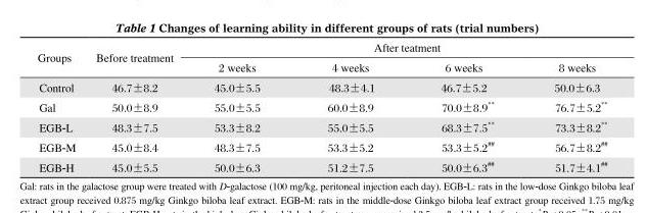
<table><thead><tr><td rowspan="2">Groups</td><td rowspan="2">Before treatment</td><td colspan="4">After teatment</td></tr><tr><td>2 weeks</td><td>4 weeks</td><td>6 weeks</td><td>8 weeks</td></tr></thead><tbody><tr><td>Control</td><td>46.7±8.2</td><td>45.0±5.5</td><td>48.3±4.1</td><td>46.7±5.2</td><td>50.0±6.3</td></tr><tr><td>Gal</td><td>50.0±8.9</td><td>55.0±5.5</td><td>60.0±8.9</td><td>70.0±8.9 **</td><td>76.7±5.2 **</td></tr><tr><td>EGB-L</td><td>48.3±7.5</td><td>53.3±8.2</td><td>55.0±5.5</td><td>68.3±7.5 **</td><td>73.3±8.2 **</td></tr><tr><td>EGB-M</td><td>45.0±8.4</td><td>48.3±7.5</td><td>53.3±5.2</td><td>53.3±5.2 <sup>##</sup></td><td>56.7±8.2 <sup>##</sup></td></tr><tr><td>EGB-H</td><td>45.0±5.5</td><td>50.0±6.3</td><td>51.2±7.5</td><td>50.0±6.3 <sup>##</sup></td><td>51.7±4.1 <sup>##</sup></td></tr></tbody></table>